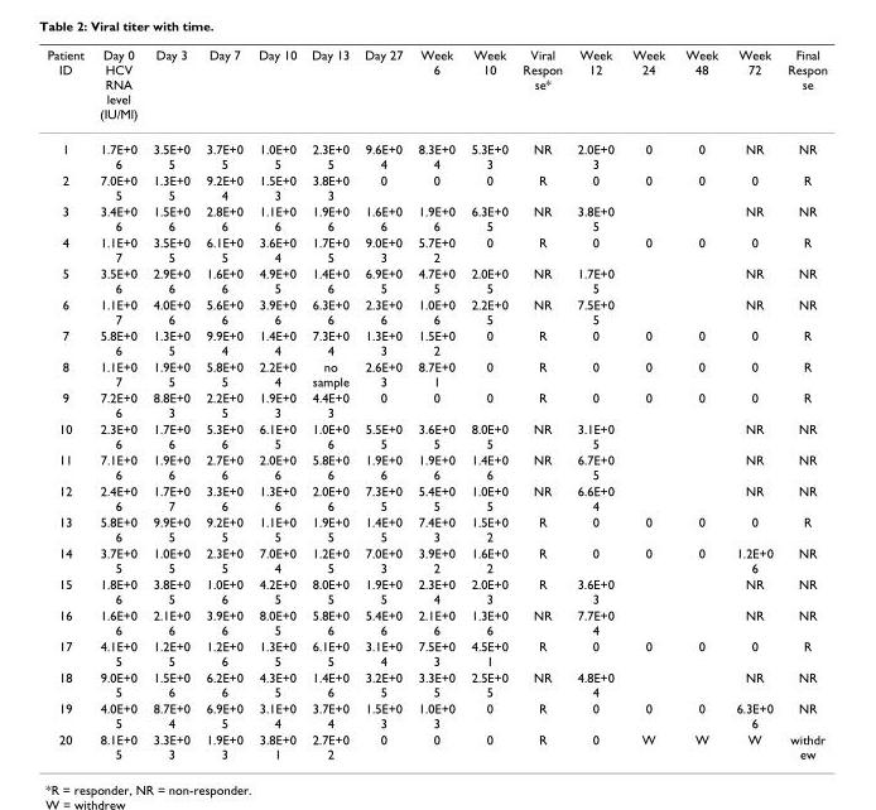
<table><thead><tr><td>Patient ID</td><td>Day 0 HCV RNA level (IU/Ml)</td><td>Day 3</td><td>Day 7</td><td>Day 10</td><td>Day 13</td><td>Day 27</td><td>Week 6</td><td>Week 10</td><td>Viral Respon se*</td><td>Week 12</td><td>Week 24</td><td>Week 48</td><td>Week 72</td><td>Final Respon se</td></tr></thead><tbody><tr><td>1</td><td>1.7E+0 6</td><td>3.5E+0 5</td><td>3.7E+0 5</td><td>1.0E+0 5</td><td>2.3E+0 5</td><td>9.6E+0 4</td><td>8.3E+0 4</td><td>5.3E+0 3</td><td>NR</td><td>2.0E+0 3</td><td>0</td><td>0</td><td>NR</td><td>NR</td></tr><tr><td>2</td><td>7.0E+0 5</td><td>1.3E+0 5</td><td>9.2E+0 4</td><td>1.5E+0 3</td><td>3.8E+0 3</td><td>0</td><td>0</td><td>0</td><td>R</td><td>0</td><td>0</td><td>0</td><td>0</td><td>R</td></tr><tr><td>3</td><td>3.4E+0 6</td><td>1.5E+0 6</td><td>2.8E+0 6</td><td>1.1E+0 6</td><td>1.9E+0 6</td><td>1.6E+0 6</td><td>1.9E+0 6</td><td>6.3E+0 5</td><td>NR</td><td>3.8E+0 5</td><td></td><td></td><td>NR</td><td>NR</td></tr><tr><td>4</td><td>1.1E+0 7</td><td>3.5E+0 5</td><td>6.1E+0 5</td><td>3.6E+0 4</td><td>1.7E+0 5</td><td>9.0E+0 3</td><td>5.7E+0 2</td><td>0</td><td>R</td><td>0</td><td>0</td><td>0</td><td>0</td><td>R</td></tr><tr><td>5</td><td>3.5E+0 6</td><td>2.9E+0 6</td><td>1.6E+0 6</td><td>4.9E+0 5</td><td>1.4E+0 6</td><td>6.9E+0 5</td><td>4.7E+0 5</td><td>2.0E+0 5</td><td>NR</td><td>1.7E+0 5</td><td></td><td></td><td>NR</td><td>NR</td></tr><tr><td>6</td><td>1.1E+0 7</td><td>4.0E+0 6</td><td>5.6E+0 6</td><td>3.9E+0 6</td><td>6.3E+0 6</td><td>2.3E+0 6</td><td>1.0E+0 6</td><td>2.2E+0 5</td><td>NR</td><td>7.5E+0 5</td><td></td><td></td><td>NR</td><td>NR</td></tr><tr><td>7</td><td>5.8E+0 6</td><td>1.3E+0 5</td><td>9.9E+0 4</td><td>1.4E+0 4</td><td>7.3E+0 4</td><td>1.3E+0 3</td><td>1.5E+0 2</td><td>0</td><td>R</td><td>0</td><td>0</td><td>0</td><td>0</td><td>R</td></tr><tr><td>8</td><td>1.1E+0 7</td><td>1.9E+0 5</td><td>5.8E+0 5</td><td>2.2E+0 4</td><td>no sample</td><td>2.6E+0 3</td><td>8.7E+0 1</td><td>0</td><td>R</td><td>0</td><td>0</td><td>0</td><td>0</td><td>R</td></tr><tr><td>9</td><td>7.2E+0 6</td><td>8.8E+0 3</td><td>2.2E+0 5</td><td>1.9E+0 3</td><td>4.4E+0 3</td><td>0</td><td>0</td><td>0</td><td>R</td><td>0</td><td>0</td><td>0</td><td>0</td><td>R</td></tr><tr><td>10</td><td>2.3E+0 6</td><td>1.7E+0 6</td><td>5.3E+0 6</td><td>6.1E+0 5</td><td>1.0E+0 6</td><td>5.5E+0 5</td><td>3.6E+0 5</td><td>8.0E+0 5</td><td>NR</td><td>3.1E+0 5</td><td></td><td></td><td>NR</td><td>NR</td></tr><tr><td>11</td><td>7.1E+0 6</td><td>1.9E+0 6</td><td>2.7E+0 6</td><td>2.0E+0 6</td><td>5.8E+0 6</td><td>1.9E+0 6</td><td>1.9E+0 6</td><td>1.4E+0 6</td><td>NR</td><td>6.7E+0 5</td><td></td><td></td><td>NR</td><td>NR</td></tr><tr><td>12</td><td>2.4E+0 6</td><td>1.7E+0 7</td><td>3.3E+0 6</td><td>1.3E+0 6</td><td>2.0E+0 6</td><td>7.3E+0 5</td><td>5.4E+0 5</td><td>1.0E+0 5</td><td>NR</td><td>6.6E+0 4</td><td></td><td></td><td>NR</td><td>NR</td></tr><tr><td>13</td><td>5.8E+0 6</td><td>9.9E+0 5</td><td>9.2E+0 5</td><td>1.1E+0 5</td><td>1.9E+0 5</td><td>1.4E+0 5</td><td>7.4E+0 3</td><td>1.5E+0 2</td><td>R</td><td>0</td><td>0</td><td>0</td><td>0</td><td>R</td></tr><tr><td>14</td><td>3.7E+0 5</td><td>1.0E+0 5</td><td>2.3E+0 5</td><td>7.0E+0 4</td><td>1.2E+0 5</td><td>7.0E+0 3</td><td>3.9E+0 2</td><td>1.6E+0 2</td><td>R</td><td>0</td><td>0</td><td>0</td><td>1.2E+0 6</td><td>NR</td></tr><tr><td>15</td><td>1.8E+0 6</td><td>3.8E+0 5</td><td>1.0E+0 6</td><td>4.2E+0 5</td><td>8.0E+0 5</td><td>1.9E+0 5</td><td>2.3E+0 4</td><td>2.0E+0 3</td><td>R</td><td>3.6E+0 3</td><td></td><td></td><td>NR</td><td>NR</td></tr><tr><td>16</td><td>1.6E+0 6</td><td>2.1E+0 6</td><td>3.9E+0 6</td><td>8.0E+0 5</td><td>5.8E+0 6</td><td>5.4E+0 6</td><td>2.1E+0 6</td><td>1.3E+0 6</td><td>NR</td><td>7.7E+0 4</td><td></td><td></td><td>NR</td><td>NR</td></tr><tr><td>17</td><td>4.1E+0 5</td><td>1.2E+0 5</td><td>1.2E+0 6</td><td>1.3E+0 5</td><td>6.1E+0 5</td><td>3.1E+0 4</td><td>7.5E+0 3</td><td>4.5E+0 1</td><td>R</td><td>0</td><td>0</td><td>0</td><td>0</td><td>R</td></tr><tr><td>18</td><td>9.0E+0 5</td><td>1.5E+0 6</td><td>6.2E+0 6</td><td>4.3E+0 5</td><td>1.4E+0 6</td><td>3.2E+0 5</td><td>3.3E+0 5</td><td>2.5E+0 5</td><td>NR</td><td>4.8E+0 4</td><td></td><td></td><td>NR</td><td>NR</td></tr><tr><td>19</td><td>4.0E+0 5</td><td>8.7E+0 4</td><td>6.9E+0 5</td><td>3.1E+0 4</td><td>3.7E+0 4</td><td>1.5E+0 3</td><td>1.0E+0 3</td><td>0</td><td>R</td><td>0</td><td>0</td><td>0</td><td>6.3E+0 6</td><td>NR</td></tr><tr><td>20</td><td>8.1E+0 5</td><td>3.3E+0 3</td><td>1.9E+0 3</td><td>3.8E+0 1</td><td>2.7E+0 2</td><td>0</td><td>0</td><td>0</td><td>R</td><td>0</td><td>W</td><td>W</td><td>W</td><td>withdr ew</td></tr></tbody></table>